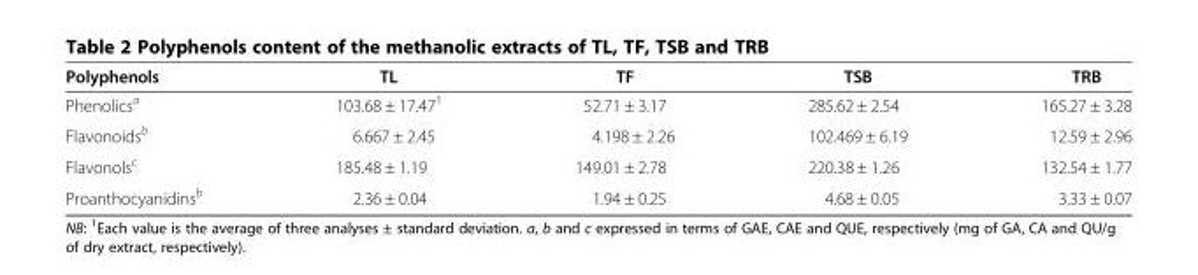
<table><thead><tr><td>Polyphenols</td><td>TL</td><td>TF</td><td>TSB</td><td>TRB</td></tr></thead><tbody><tr><td>Phenolics<sup>a</sup></td><td>103.68 ± 17.47<sup>1</sup></td><td>52.71 ± 3.17</td><td>285.62 ± 2.54</td><td>165.27 ± 3.28</td></tr><tr><td>Flavonoids<sup>b</sup></td><td>6.667 ± 2.45</td><td>4.198 ± 2.26</td><td>102.469 ± 6.19</td><td>12.59 ± 2.96</td></tr><tr><td>Flavonols<sup>c</sup></td><td>185.48 ± 1.19</td><td>149.01 ± 2.78</td><td>220.38 ± 1.26</td><td>132.54 ± 1.77</td></tr><tr><td>Proanthocyanidins<sup>b</sup></td><td>2.36 ± 0.04</td><td>1.94 ± 0.25</td><td>4.68 ± 0.05</td><td>3.33 ± 0.07</td></tr></tbody></table>